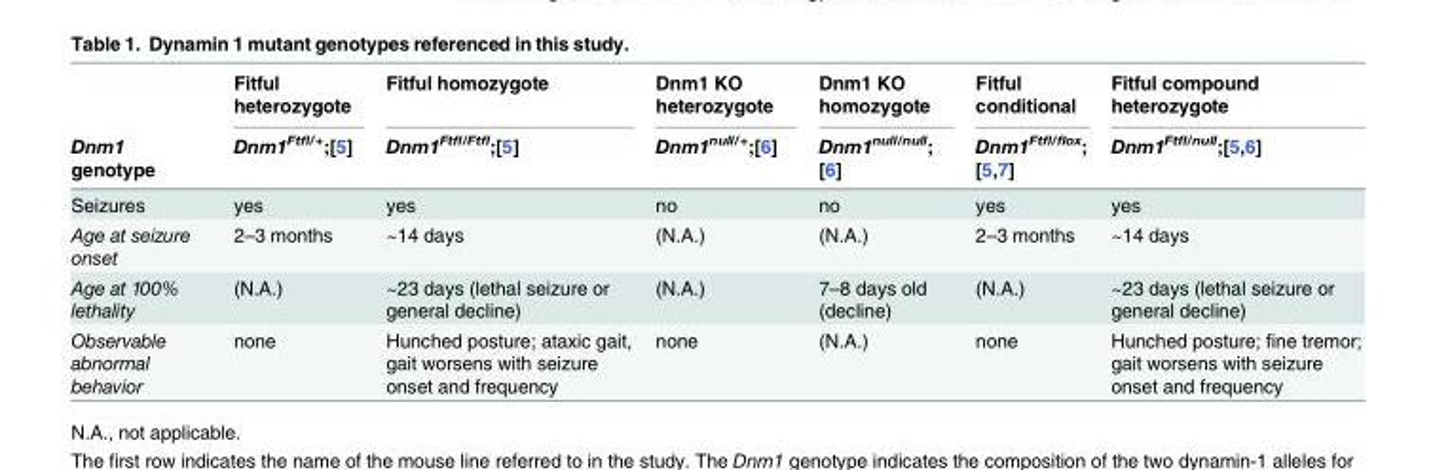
<table><thead><tr><td rowspan="2">Dnm1 genotype</td><td rowspan="2">Fitful heterozygote Dnm1<sup>Ftfl/+</sup>;[5]</td><td rowspan="2">Fitful homozygote Dnm1<sup>Ftfl/Ftfl</sup>;[5]</td><td rowspan="2">Dnm1 KO heterozygote Dnm1<sup>null/+</sup>;[6]</td><td rowspan="2">Dnm1 KO homozygote Dnm1<sup>null/null</sup>; [6]</td><td rowspan="2">Fitful conditional Dnm1<sup>Ftfl/flox</sup>; [5,7]</td><td rowspan="2">Fitful compound heterozygote Dnm1<sup>Ftfl/null</sup>;[5,6]</td></tr><tr></tr></thead><tbody><tr><td>Seizures</td><td>yes</td><td>yes</td><td>no</td><td>no</td><td>yes</td><td>yes</td></tr><tr><td>Age at seizure onset</td><td>2–3 months</td><td>~14 days</td><td>(N.A.)</td><td>(N.A.)</td><td>2–3 months</td><td>~14 days</td></tr><tr><td>Age at 100% lethality</td><td>(N.A.)</td><td>~23 days (lethal seizure or general decline)</td><td>(N.A.)</td><td>7–8 days old (decline)</td><td>(N.A.)</td><td>~23 days (lethal seizure or general decline)</td></tr><tr><td>Observable abnormal behavior</td><td>none</td><td>Hunched posture; ataxic gait, gait worsens with seizure onset and frequency</td><td>none</td><td>(N.A.)</td><td>none</td><td>Hunched posture; fine tremor; gait worsens with seizure onset and frequency</td></tr></tbody></table>